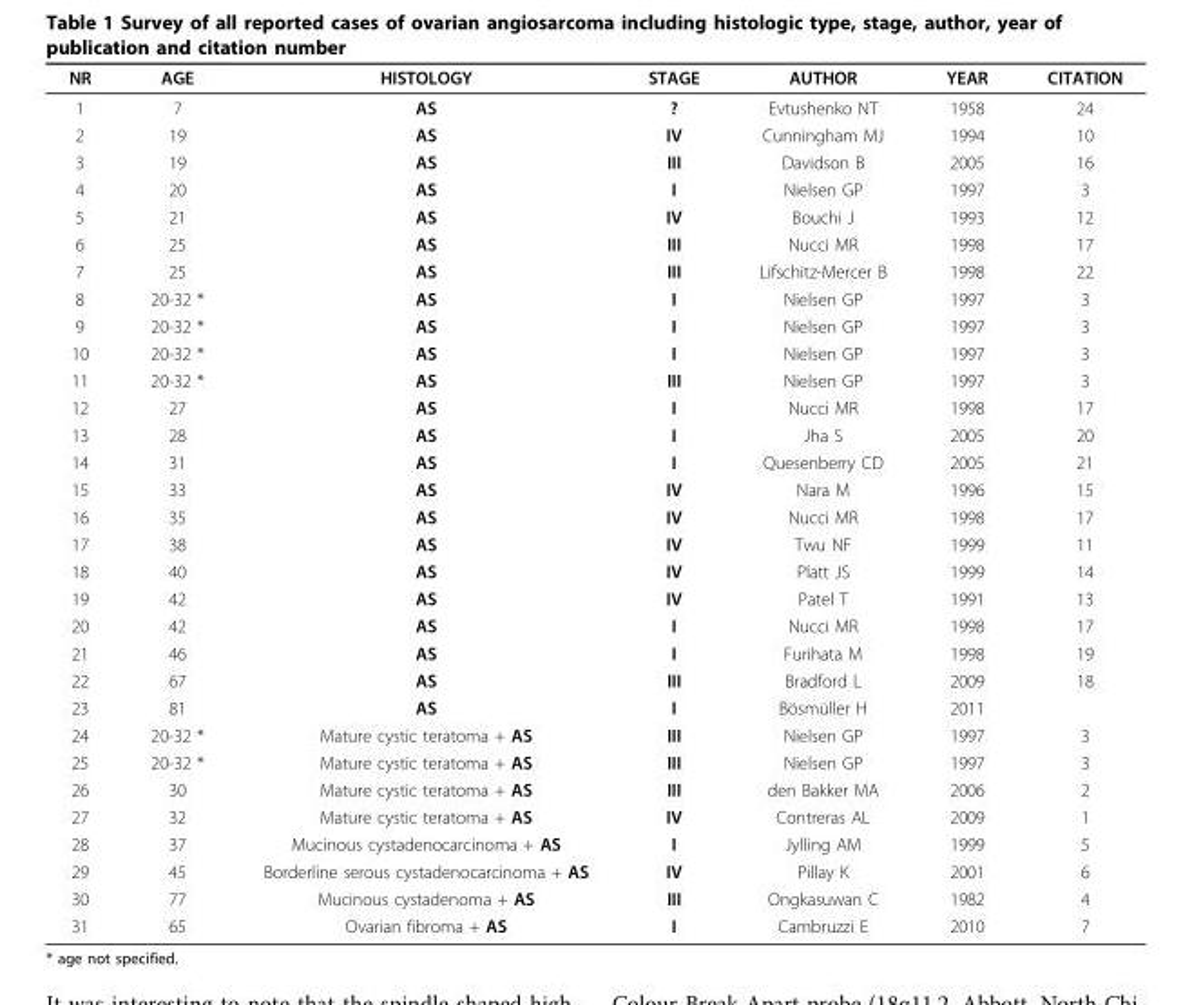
<table><thead><tr><td>NR</td><td>AGE</td><td>HISTOLOGY</td><td>STAGE</td><td>AUTHOR</td><td>YEAR</td><td>CITATION</td></tr></thead><tbody><tr><td>1</td><td>7</td><td>AS</td><td>?</td><td>Evtushenko NT</td><td>1958</td><td>24</td></tr><tr><td>2</td><td>19</td><td>AS</td><td>IV</td><td>Cunningham MJ</td><td>1994</td><td>10</td></tr><tr><td>3</td><td>19</td><td>AS</td><td>III</td><td>Davidson B</td><td>2005</td><td>16</td></tr><tr><td>4</td><td>20</td><td>AS</td><td>I</td><td>Nielsen GP</td><td>1997</td><td>3</td></tr><tr><td>5</td><td>21</td><td>AS</td><td>IV</td><td>Bouchi J</td><td>1993</td><td>12</td></tr><tr><td>6</td><td>25</td><td>AS</td><td>III</td><td>Nucci MR</td><td>1998</td><td>17</td></tr><tr><td>7</td><td>25</td><td>AS</td><td>III</td><td>Lifschitz-Mercer B</td><td>1998</td><td>22</td></tr><tr><td>8</td><td>20-32 *</td><td>AS</td><td>I</td><td>Nielsen GP</td><td>1997</td><td>3</td></tr><tr><td>9</td><td>20-32 *</td><td>AS</td><td>I</td><td>Nielsen GP</td><td>1997</td><td>3</td></tr><tr><td>10</td><td>20-32 *</td><td>AS</td><td>I</td><td>Nielsen GP</td><td>1997</td><td>3</td></tr><tr><td>11</td><td>20-32 *</td><td>AS</td><td>III</td><td>Nielsen GP</td><td>1997</td><td>3</td></tr><tr><td>12</td><td>27</td><td>AS</td><td>I</td><td>Nucci MR</td><td>1998</td><td>17</td></tr><tr><td>13</td><td>28</td><td>AS</td><td>I</td><td>Jha S</td><td>2005</td><td>20</td></tr><tr><td>14</td><td>31</td><td>AS</td><td>I</td><td>Quesenberry CD</td><td>2005</td><td>21</td></tr><tr><td>15</td><td>33</td><td>AS</td><td>IV</td><td>Nara M</td><td>1996</td><td>15</td></tr><tr><td>16</td><td>35</td><td>AS</td><td>IV</td><td>Nucci MR</td><td>1998</td><td>17</td></tr><tr><td>17</td><td>38</td><td>AS</td><td>IV</td><td>Twu NF</td><td>1999</td><td>11</td></tr><tr><td>18</td><td>40</td><td>AS</td><td>IV</td><td>Platt JS</td><td>1999</td><td>14</td></tr><tr><td>19</td><td>42</td><td>AS</td><td>IV</td><td>Patel T</td><td>1991</td><td>13</td></tr><tr><td>20</td><td>42</td><td>AS</td><td>I</td><td>Nucci MR</td><td>1998</td><td>17</td></tr><tr><td>21</td><td>46</td><td>AS</td><td>I</td><td>Furihata M</td><td>1998</td><td>19</td></tr><tr><td>22</td><td>67</td><td>AS</td><td>III</td><td>Bradford L</td><td>2009</td><td>18</td></tr><tr><td>23</td><td>81</td><td>AS</td><td>I</td><td>Bösmüller H</td><td>2011</td><td></td></tr><tr><td>24</td><td>20-32 *</td><td>Mature cystic teratoma + AS</td><td>III</td><td>Nielsen GP</td><td>1997</td><td>3</td></tr><tr><td>25</td><td>20-32 *</td><td>Mature cystic teratoma + AS</td><td>III</td><td>Nielsen GP</td><td>1997</td><td>3</td></tr><tr><td>26</td><td>30</td><td>Mature cystic teratoma + AS</td><td>III</td><td>den Bakker MA</td><td>2006</td><td>2</td></tr><tr><td>27</td><td>32</td><td>Mature cystic teratoma + AS</td><td>IV</td><td>Contreras AL</td><td>2009</td><td>1</td></tr><tr><td>28</td><td>37</td><td>Mucinous cystadenocarcinoma + AS</td><td>I</td><td>Jylling AM</td><td>1999</td><td>5</td></tr><tr><td>29</td><td>45</td><td>Borderline serous cystadenocarcinoma + AS</td><td>IV</td><td>Pillay K</td><td>2001</td><td>6</td></tr><tr><td>30</td><td>77</td><td>Mucinous cystadenoma + AS</td><td>III</td><td>Ongkasuwan C</td><td>1982</td><td>4</td></tr><tr><td>31</td><td>65</td><td>Ovarian fibroma + AS</td><td>I</td><td>Cambruzzi E</td><td>2010</td><td>7</td></tr></tbody></table>